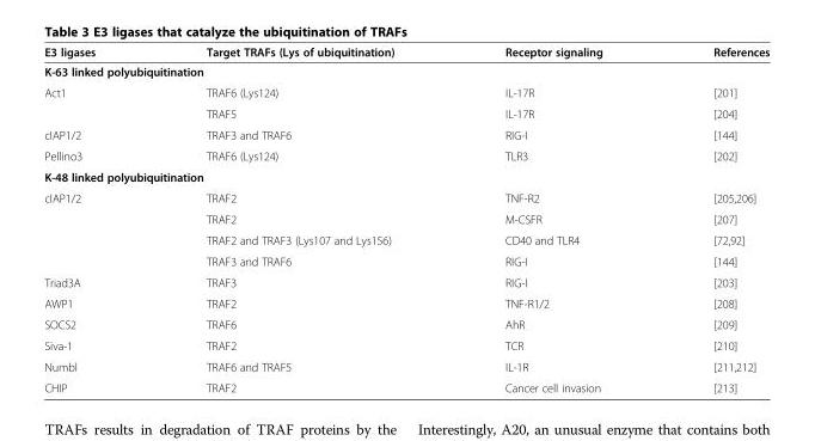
<table><thead><tr><td>E3 ligases</td><td>Target TRAFs (Lys of ubiquitination)</td><td>Receptor signaling</td><td>References</td></tr></thead><tbody><tr><td colspan="4">K-63 linked polyubiquitination</td></tr><tr><td rowspan="2">Act1</td><td>TRAF6 (Lys124)</td><td>IL-17R</td><td>[201]</td></tr><tr><td>TRAF5</td><td>IL-17R</td><td>[204]</td></tr><tr><td>cIAP1/2</td><td>TRAF3 and TRAF6</td><td>RIG-I</td><td>[144]</td></tr><tr><td>Pellino3</td><td>TRAF6 (Lys124)</td><td>TLR3</td><td>[202]</td></tr><tr><td colspan="4">K-48 linked polyubiquitination</td></tr><tr><td rowspan="4">cIAP1/2</td><td>TRAF2</td><td>TNF-R2</td><td>[205,206]</td></tr><tr><td>TRAF2</td><td>M-CSFR</td><td>[207]</td></tr><tr><td>TRAF2 and TRAF3 (Lys107 and Lys156)</td><td>CD40 and TLR4</td><td>[72,92]</td></tr><tr><td>TRAF3 and TRAF6</td><td>RIG-I</td><td>[144]</td></tr><tr><td>Triad3A</td><td>TRAF3</td><td>RIG-I</td><td>[203]</td></tr><tr><td>AWP1</td><td>TRAF2</td><td>TNF-R1/2</td><td>[208]</td></tr><tr><td>SOCS2</td><td>TRAF6</td><td>AhR</td><td>[209]</td></tr><tr><td>Siva-1</td><td>TRAF2</td><td>TCR</td><td>[210]</td></tr><tr><td>Numbl</td><td>TRAF6 and TRAF5</td><td>IL-1R</td><td>[211,212]</td></tr><tr><td>CHIP</td><td>TRAF2</td><td>Cancer cell invasion</td><td>[213]</td></tr></tbody></table>